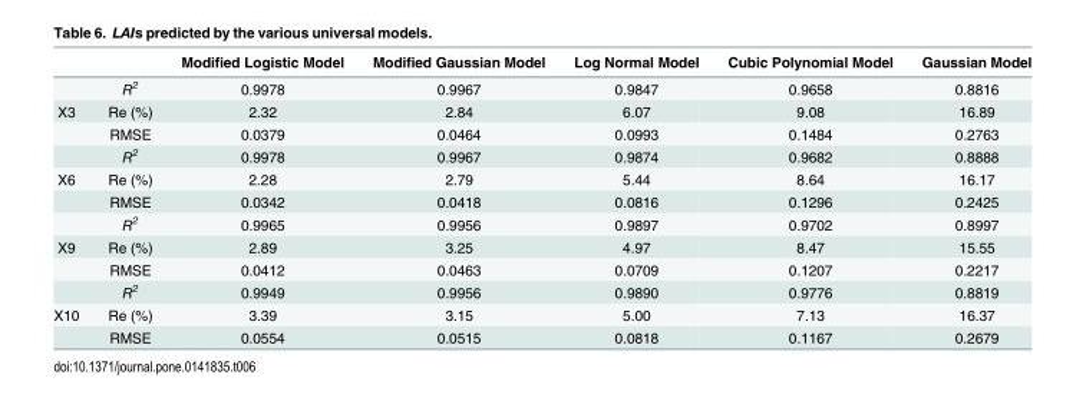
<table><thead><tr><td></td><td></td><td>Modified Logistic Model</td><td>Modified Gaussian Model</td><td>Log Normal Model</td><td>Cubic Polynomial Model</td><td>Gaussian Model</td></tr></thead><tbody><tr><td></td><td>R<sup>2</sup></td><td>0.9978</td><td>0.9967</td><td>0.9847</td><td>0.9658</td><td>0.8816</td></tr><tr><td rowspan="3">X3</td><td>Re (%)</td><td>2.32</td><td>2.84</td><td>6.07</td><td>9.08</td><td>16.89</td></tr><tr><td>RMSE</td><td>0.0379</td><td>0.0464</td><td>0.0993</td><td>0.1484</td><td>0.2763</td></tr><tr><td>R<sup>2</sup></td><td>0.9978</td><td>0.9967</td><td>0.9874</td><td>0.9682</td><td>0.8888</td></tr><tr><td rowspan="3">X6</td><td>Re (%)</td><td>2.28</td><td>2.79</td><td>5.44</td><td>8.64</td><td>16.17</td></tr><tr><td>RMSE</td><td>0.0342</td><td>0.0418</td><td>0.0816</td><td>0.1296</td><td>0.2425</td></tr><tr><td>R<sup>2</sup></td><td>0.9965</td><td>0.9956</td><td>0.9897</td><td>0.9702</td><td>0.8997</td></tr><tr><td rowspan="3">X9</td><td>Re (%)</td><td>2.89</td><td>3.25</td><td>4.97</td><td>8.47</td><td>15.55</td></tr><tr><td>RMSE</td><td>0.0412</td><td>0.0463</td><td>0.0709</td><td>0.1207</td><td>0.2217</td></tr><tr><td>R<sup>2</sup></td><td>0.9949</td><td>0.9956</td><td>0.9890</td><td>0.9776</td><td>0.8819</td></tr><tr><td rowspan="2">X10</td><td>Re (%)</td><td>3.39</td><td>3.15</td><td>5.00</td><td>7.13</td><td>16.37</td></tr><tr><td>RMSE</td><td>0.0554</td><td>0.0515</td><td>0.0818</td><td>0.1167</td><td>0.2679</td></tr></tbody></table>